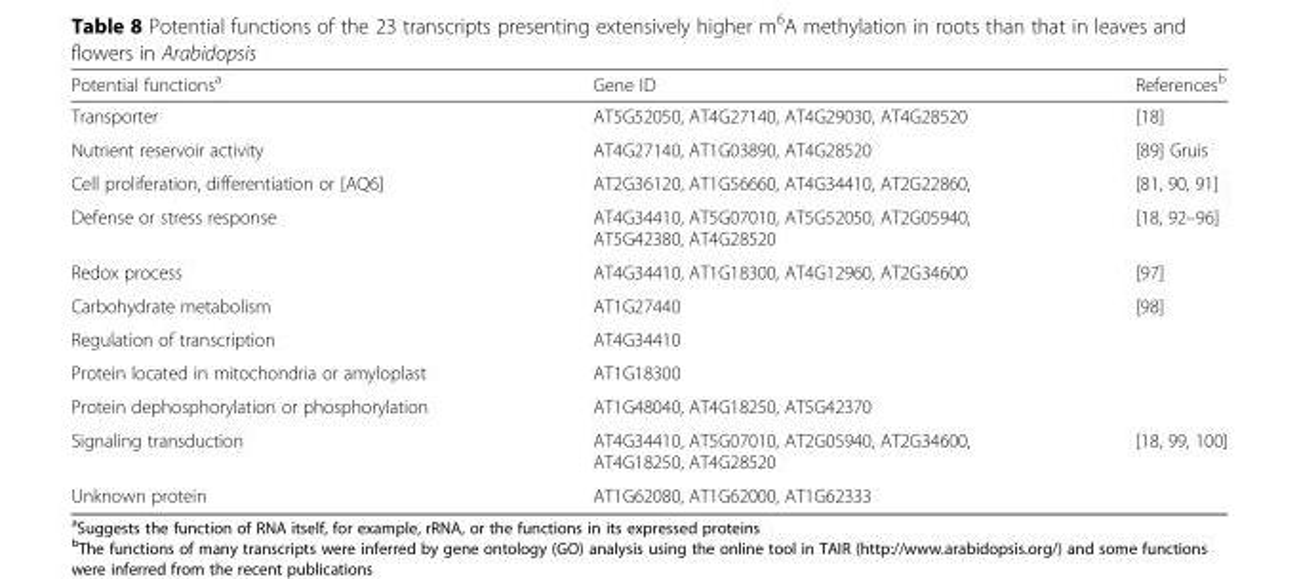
<table><thead><tr><td>Potential functions<sup>a</sup></td><td>Gene ID</td><td>References<sup>b</sup></td></tr></thead><tbody><tr><td>Transporter</td><td>AT5G52050, AT4G27140, AT4G29030, AT4G28520</td><td>[18]</td></tr><tr><td>Nutrient reservoir activity</td><td>AT4G27140, AT1G03890, AT4G28520</td><td>[89] Gruis</td></tr><tr><td>Cell proliferation, differentiation or [AQ6]</td><td>AT2G36120, AT1G56660, AT4G34410, AT2G22860,</td><td>[81, 90, 91]</td></tr><tr><td>Defense or stress response</td><td>AT4G34410, AT5G07010, AT5G52050, AT2G05940, AT5G42380, AT4G28520</td><td>[18, 92–96]</td></tr><tr><td>Redox process</td><td>AT4G34410, AT1G18300, AT4G12960, AT2G34600</td><td>[97]</td></tr><tr><td>Carbohydrate metabolism</td><td>AT1G27440</td><td>[98]</td></tr><tr><td>Regulation of transcription</td><td>AT4G34410</td><td></td></tr><tr><td>Protein located in mitochondria or amyloplast</td><td>AT1G18300</td><td></td></tr><tr><td>Protein dephosphorylation or phosphorylation</td><td>AT1G48040, AT4G18250, AT5G42370</td><td></td></tr><tr><td>Signaling transduction</td><td>AT4G34410, AT5G07010, AT2G05940, AT2G34600, AT4G18250, AT4G28520</td><td>[18, 99, 100]</td></tr><tr><td>Unknown protein</td><td>AT1G62080, AT1G62000, AT1G62333</td><td></td></tr></tbody></table>